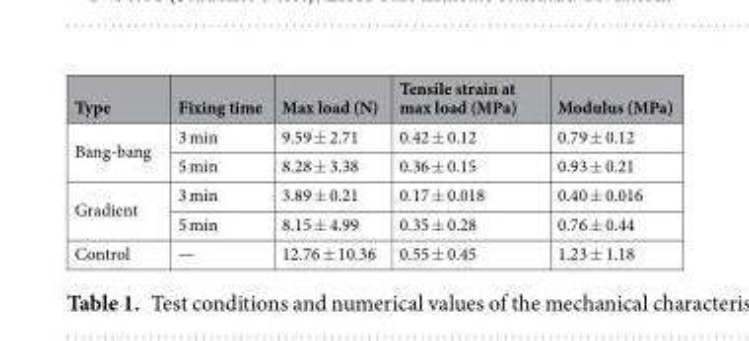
<table><thead><tr><td>Type</td><td>Fixing time</td><td>Max load (N)</td><td>Tensile strain at max load (MPa)</td><td>Modulus (MPa)</td></tr></thead><tbody><tr><td rowspan="2">Bang-bang</td><td>3 min</td><td>9.59 ± 2.71</td><td>0.42 ± 0.12</td><td>0.79 ± 0.12</td></tr><tr><td>5 min</td><td>8.28 ± 3.38</td><td>0.36 ± 0.15</td><td>0.93 ± 0.21</td></tr><tr><td rowspan="2">Gradient</td><td>3 min</td><td>3.89 ± 0.21</td><td>0.17 ± 0.018</td><td>0.40 ± 0.016</td></tr><tr><td>5 min</td><td>8.15 ± 4.99</td><td>0.35 ± 0.28</td><td>0.76 ± 0.44</td></tr><tr><td>Control</td><td>—</td><td>12.76 ± 10.36</td><td>0.55 ± 0.45</td><td>1.23 ± 1.18</td></tr></tbody></table>